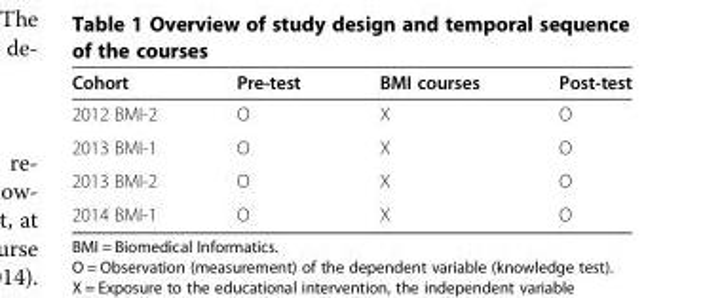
<table><thead><tr><td>Cohort</td><td>Pre-test</td><td>BMI courses</td><td>Post-test</td></tr></thead><tbody><tr><td>2012 BMI-2</td><td>O</td><td>X</td><td>O</td></tr><tr><td>2013 BMI-1</td><td>O</td><td>X</td><td>O</td></tr><tr><td>2013 BMI-2</td><td>O</td><td>X</td><td>O</td></tr><tr><td>2014 BMI-1</td><td>O</td><td>X</td><td>O</td></tr></tbody></table>